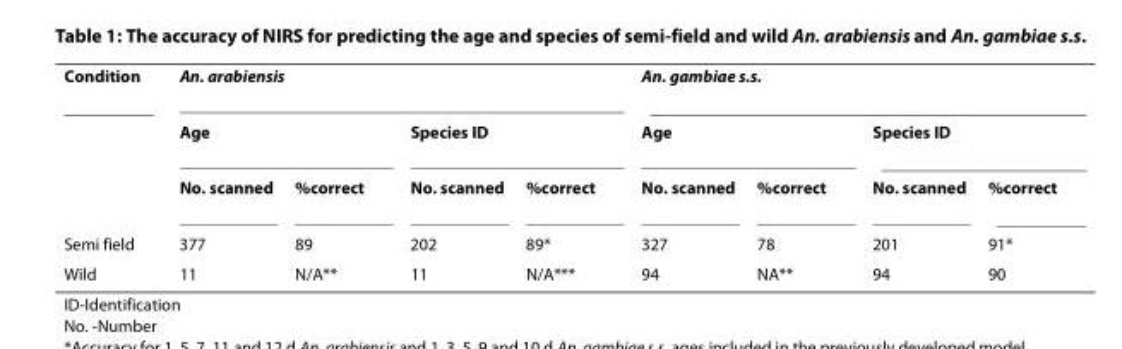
<table><tbody><tr><td rowspan="3">Condition</td><td colspan="4">An. arabiensis</td><td colspan="4">An. gambiae s.s.</td></tr><tr><td colspan="2">Age</td><td colspan="2">Species ID</td><td colspan="2">Age</td><td colspan="2">Species ID</td></tr><tr><td>No. scanned</td><td>%correct</td><td>No. scanned</td><td>%correct</td><td>No. scanned</td><td>%correct</td><td>No. scanned</td><td>%correct</td></tr><tr><td>Semi field</td><td>377</td><td>89</td><td>202</td><td>89*</td><td>327</td><td>78</td><td>201</td><td>91*</td></tr><tr><td>Wild</td><td>11</td><td>N/A**</td><td>11</td><td>N/A***</td><td>94</td><td>NA**</td><td>94</td><td>90</td></tr></tbody></table>